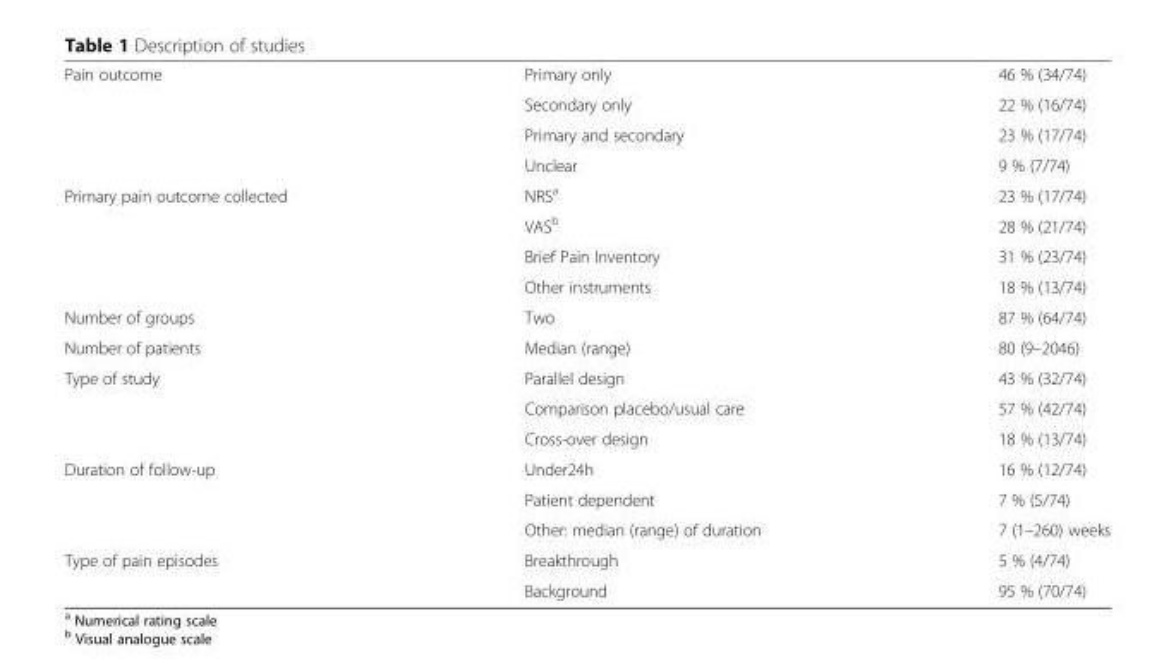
<table><tbody><tr><td rowspan="4">Pain outcome</td><td>Primary only</td><td>46 % (34/74)</td></tr><tr><td>Secondary only</td><td>22 % (16/74)</td></tr><tr><td>Primary and secondary</td><td>23 % (17/74)</td></tr><tr><td>Unclear</td><td>9 % (7/74)</td></tr><tr><td rowspan="4">Primary pain outcome collected</td><td>NRS<sup>a</sup></td><td>23 % (17/74)</td></tr><tr><td>VAS<sup>b</sup></td><td>28 % (21/74)</td></tr><tr><td>Brief Pain Inventory</td><td>31 % (23/74)</td></tr><tr><td>Other instruments</td><td>18 % (13/74)</td></tr><tr><td>Number of groups</td><td>Two</td><td>87 % (64/74)</td></tr><tr><td>Number of patients</td><td>Median (range)</td><td>80 (9–2046)</td></tr><tr><td rowspan="3">Type of study</td><td>Parallel design</td><td>43 % (32/74)</td></tr><tr><td>Comparison placebo/usual care</td><td>57 % (42/74)</td></tr><tr><td>Cross-over design</td><td>18 % (13/74)</td></tr><tr><td rowspan="3">Duration of follow-up</td><td>Under24h</td><td>16 % (12/74)</td></tr><tr><td>Patient dependent</td><td>7 % (5/74)</td></tr><tr><td>Other: median (range) of duration</td><td>7 (1–260) weeks</td></tr><tr><td rowspan="2">Type of pain episodes</td><td>Breakthrough</td><td>5 % (4/74)</td></tr><tr><td>Background</td><td>95 % (70/74)</td></tr></tbody></table>